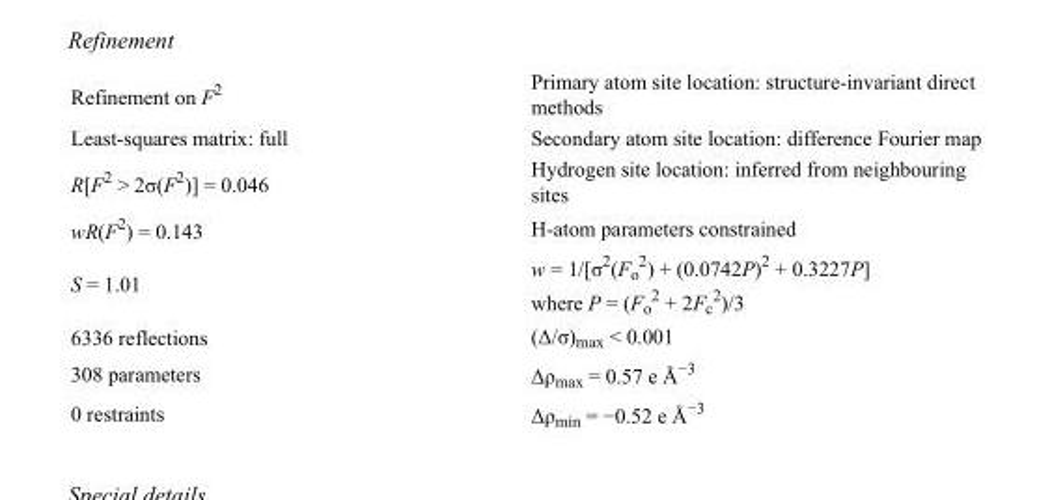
<table><tbody><tr><td>Refinement on F<sup>2</sup></td><td>Primary atom site location: structure-invariant direct methods</td></tr><tr><td>Least-squares matrix: full</td><td>Secondary atom site location: difference Fourier map</td></tr><tr><td>R[F<sup>2</sup> &gt; 2σ(F<sup>2</sup>)] = 0.046</td><td>Hydrogen site location: inferred from neighbouring sites</td></tr><tr><td>wR(F<sup>2</sup>) = 0.143</td><td>H-atom parameters constrained</td></tr><tr><td>S = 1.01</td><td>w = 1/[σ<sup>2</sup>(F<sub>o</sub> <sup>2</sup>) + (0.0742P)<sup>2</sup> + 0.3227P] where P = (F<sub>o</sub> <sup>2</sup> + 2F<sub>c</sub> <sup>2</sup>)/3</td></tr><tr><td>6336 reflections</td><td>(Δ/σ)<sub>max</sub> &lt; 0.001</td></tr><tr><td>308 parameters</td><td>Δρ<sub>max</sub> = 0.57 e Å<sup>−3</sup></td></tr><tr><td>0 restraints</td><td>Δρ<sub>min</sub> = −0.52 e Å<sup>−3</sup></td></tr></tbody></table>